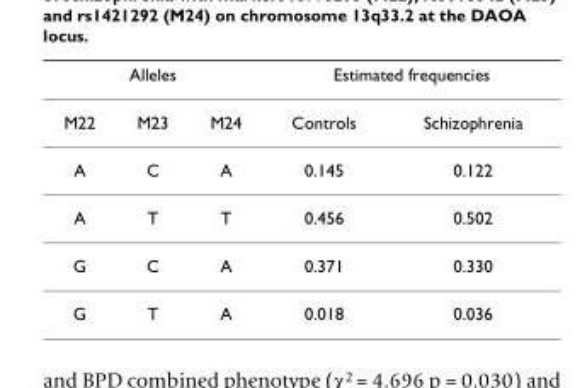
<table><thead><tr><td colspan="3">Alleles</td><td colspan="2">Estimated frequencies</td></tr><tr><td>M22</td><td>M23</td><td>M24</td><td>Controls</td><td>Schizophrenia</td></tr></thead><tbody><tr><td>A</td><td>C</td><td>A</td><td>0.145</td><td>0.122</td></tr><tr><td>A</td><td>T</td><td>T</td><td>0.456</td><td>0.502</td></tr><tr><td>G</td><td>C</td><td>A</td><td>0.371</td><td>0.330</td></tr><tr><td>G</td><td>T</td><td>A</td><td>0.018</td><td>0.036</td></tr></tbody></table>